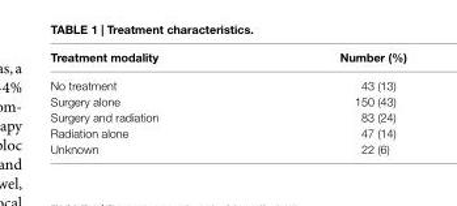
<table><thead><tr><td>Treatment modality</td><td>number (%)</td></tr></thead><tbody><tr><td>No treatment</td><td>43 (13)</td></tr><tr><td>Surgery alone</td><td>150 (43)</td></tr><tr><td>Surgery and radiation</td><td>83 (24)</td></tr><tr><td>Radiation alone</td><td>47 (14)</td></tr><tr><td>Unknown</td><td>22 (6)</td></tr></tbody></table>